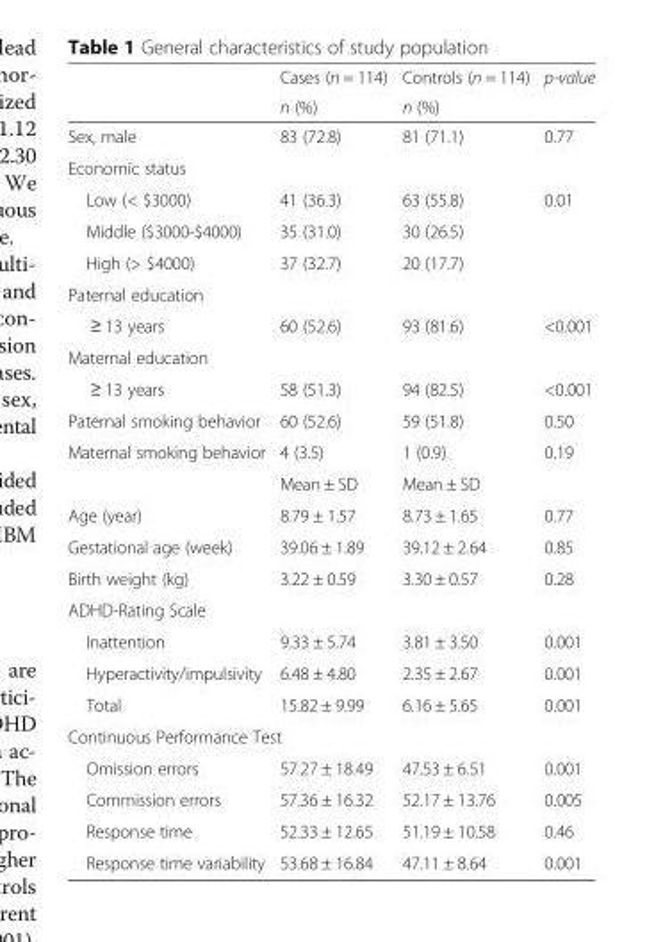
<table><thead><tr><td rowspan="2"></td><td rowspan="2">Cases (n = 114) n (%)</td><td rowspan="2">Controls (n = 114) n (%)</td><td rowspan="2">p-value</td></tr><tr></tr></thead><tbody><tr><td>Sex, male</td><td>83 (72.8)</td><td>81 (71.1)</td><td>0.77</td></tr><tr><td colspan="4">Economic status</td></tr><tr><td>Low (&lt; $3000)</td><td>41 (36.3)</td><td>63 (55.8)</td><td>0.01</td></tr><tr><td>Middle ($3000-$4000)</td><td>35 (31.0)</td><td>30 (26.5)</td><td></td></tr><tr><td>High (&gt; $4000)</td><td>37 (32.7)</td><td>20 (17.7)</td><td></td></tr><tr><td colspan="4">Paternal education</td></tr><tr><td>≥ 13 years</td><td>60 (52.6)</td><td>93 (81.6)</td><td>&lt;0.001</td></tr><tr><td colspan="4">Maternal education</td></tr><tr><td>≥ 13 years</td><td>58 (51.3)</td><td>94 (82.5)</td><td>&lt;0.001</td></tr><tr><td>Paternal smoking behavior</td><td>60 (52.6)</td><td>59 (51.8)</td><td>0.50</td></tr><tr><td rowspan="2">Maternal smoking behavior</td><td>4 (3.5)</td><td>1 (0.9)</td><td>0.19</td></tr><tr><td>Mean ± SD</td><td>Mean ± SD</td><td></td></tr><tr><td>Age (year)</td><td>8.79 ± 1.57</td><td>8.73 ± 1.65</td><td>0.77</td></tr><tr><td>Gestational age (week)</td><td>39.06 ± 1.89</td><td>39.12 ± 2.64</td><td>0.85</td></tr><tr><td>Birth weight (kg)</td><td>3.22 ± 0.59</td><td>3.30 ± 0.57</td><td>0.28</td></tr><tr><td colspan="4">ADHD-Rating Scale</td></tr><tr><td>Inattention</td><td>9.33 ± 5.74</td><td>3.81 ± 3.50</td><td>0.001</td></tr><tr><td>Hyperactivity/impulsivity</td><td>6.48 ± 4.80</td><td>2.35 ± 2.67</td><td>0.001</td></tr><tr><td>Total</td><td>15.82 ± 9.99</td><td>6.16 ± 5.65</td><td>0.001</td></tr><tr><td colspan="4">Continuous Performance Test</td></tr><tr><td>Omission errors</td><td>57.27 ± 18.49</td><td>47.53 ± 6.51</td><td>0.001</td></tr><tr><td>Commission errors</td><td>57.36 ± 16.32</td><td>52.17 ± 13.76</td><td>0.005</td></tr><tr><td>Response time</td><td>52.33 ± 12.65</td><td>51.19 ± 10.58</td><td>0.46</td></tr><tr><td>Response time variability</td><td>53.68 ± 16.84</td><td>47.11 ± 8.64</td><td>0.001</td></tr></tbody></table>